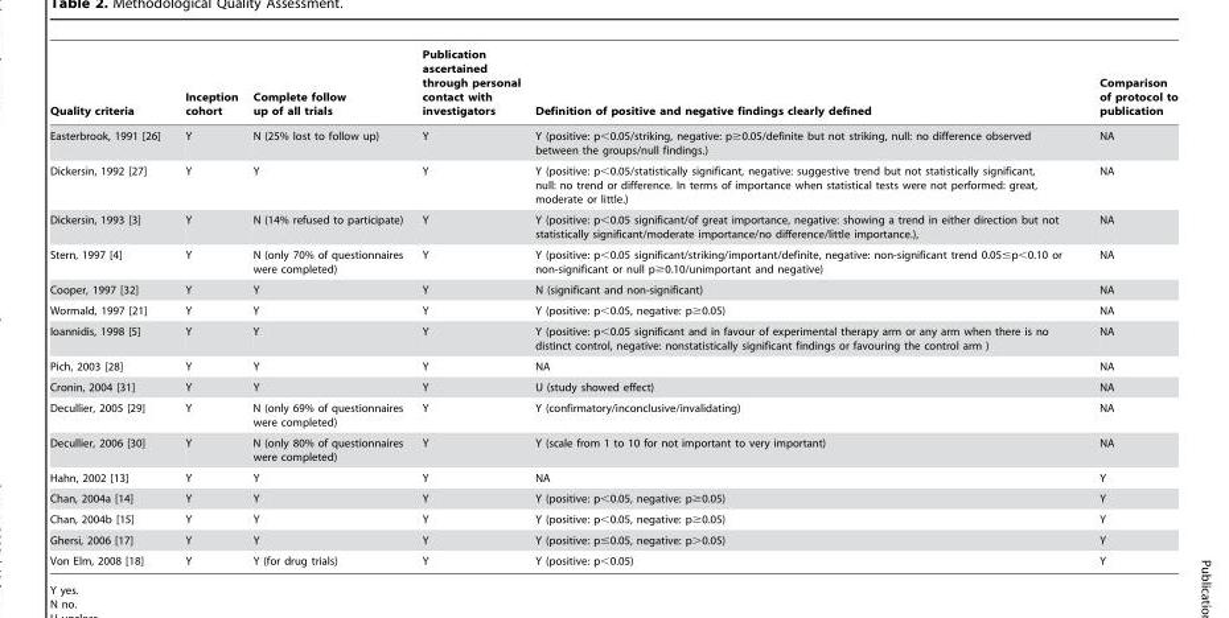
<table><thead><tr><td>Quality criteria</td><td>Inception cohort</td><td>Complete follow up of all trials</td><td>Publication ascertained through personal contact with investigators</td><td>Definition of positive and negative findings clearly defined</td><td>Comparison of protocol to publication</td></tr></thead><tbody><tr><td>Easterbrook, 1991 [26]</td><td>Y</td><td>N (25% lost to follow up)</td><td>Y</td><td>Y (positive: p&lt;0.05/striking, negative: p≥0.05/definite but not striking, null: no difference observed between the groups/null findings.)</td><td>NA</td></tr><tr><td>Dickersin, 1992 [27]</td><td>Y</td><td>Y</td><td>Y</td><td>Y (positive: p&lt;0.05/statistically significant, negative: suggestive trend but not statistically significant, null: no trend or difference. In terms of importance when statistical tests were not performed: great, moderate or little.)</td><td>NA</td></tr><tr><td>Dickersin, 1993 [3]</td><td>Y</td><td>N (14% refused to participate)</td><td>Y</td><td>Y (positive: p&lt;0.05 significant/of great importance, negative: showing a trend in either direction but not statistically significant/moderate importance/no difference/little importance.),</td><td>NA</td></tr><tr><td>Stern, 1997 [4]</td><td>Y</td><td>N (only 70% of questionnaires were completed)</td><td>Y</td><td>Y (positive: p&lt;0.05 significant/striking/important/definite, negative: non-significant trend 0.05≤p&lt;0.10 or non-significant or null p≥0.10/unimportant and negative)</td><td>NA</td></tr><tr><td>Cooper, 1997 [32]</td><td>Y</td><td>Y</td><td>Y</td><td>N (significant and non-significant)</td><td>NA</td></tr><tr><td>Wormald, 1997 [21]</td><td>Y</td><td>Y</td><td>Y</td><td>Y (positive: p&lt;0.05, negative: p≥0.05)</td><td>NA</td></tr><tr><td>Ioannidis, 1998 [5]</td><td>Y</td><td>Y</td><td>Y</td><td>Y (positive: p&lt;0.05 significant and in favour of experimental therapy arm or any arm when there is no distinct control, negative: nonstatistically significant findings or favouring the control arm )</td><td>NA</td></tr><tr><td>Pich, 2003 [28]</td><td>Y</td><td>Y</td><td>Y</td><td>NA</td><td>NA</td></tr><tr><td>Cronin, 2004 [31]</td><td>Y</td><td>Y</td><td>Y</td><td>U (study showed effect)</td><td>NA</td></tr><tr><td>Decullier, 2005 [29]</td><td>Y</td><td>N (only 69% of questionnaires were completed)</td><td>Y</td><td>Y (confirmatory/inconclusive/invalidating)</td><td>NA</td></tr><tr><td>Decullier, 2006 [30]</td><td>Y</td><td>N (only 80% of questionnaires were completed)</td><td>Y</td><td>Y (scale from 1 to 10 for not important to very important)</td><td>NA</td></tr><tr><td>Hahn, 2002 [13]</td><td>Y</td><td>Y</td><td>Y</td><td>NA</td><td>Y</td></tr><tr><td>Chan, 2004a [14]</td><td>Y</td><td>Y</td><td>Y</td><td>Y (positive: p&lt;0.05, negative: p≥0.05)</td><td>Y</td></tr><tr><td>Chan, 2004b [15]</td><td>Y</td><td>Y</td><td>Y</td><td>Y (positive: p&lt;0.05, negative: p≥0.05)</td><td>Y</td></tr><tr><td>Ghersi, 2006 [17]</td><td>Y</td><td>Y</td><td>Y</td><td>Y (positive: p≤0.05, negative: p&gt;0.05)</td><td>Y</td></tr><tr><td>Von Elm, 2008 [18]</td><td>Y</td><td>Y (for drug trials)</td><td>Y</td><td>Y (positive: p&lt;0.05)</td><td>Y</td></tr></tbody></table>